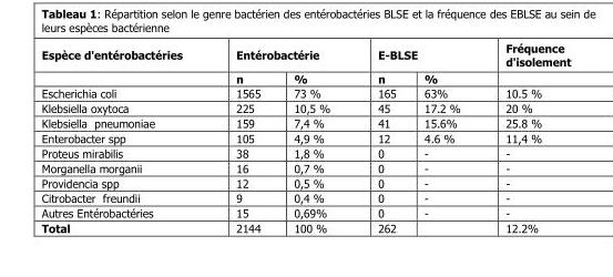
<table><thead><tr><td rowspan="2">Espèce d&#x27;entérobactéries</td><td colspan="2">Entérobactérie</td><td colspan="2">E-BLSE</td><td rowspan="2">Fréquence d&#x27;isolement</td></tr><tr><td>n</td><td>%</td><td>n</td><td>%</td></tr></thead><tbody><tr><td>Escherichia coli</td><td>1565</td><td>73 %</td><td>165</td><td>63%</td><td>10.5 %</td></tr><tr><td>Klebsiella oxytoca</td><td>225</td><td>10,5 %</td><td>45</td><td>17.2 %</td><td>20 %</td></tr><tr><td>Klebsiella pneumoniae</td><td>159</td><td>7,4 %</td><td>41</td><td>15.6%</td><td>25.8 %</td></tr><tr><td>Enterobacter spp</td><td>105</td><td>4,9 %</td><td>12</td><td>4.6 %</td><td>11,4 %</td></tr><tr><td>Proteus mirabilis</td><td>38</td><td>1,8 %</td><td>0</td><td>-</td><td>-</td></tr><tr><td>Morganella morganii</td><td>16</td><td>0,7 %</td><td>0</td><td>-</td><td>-</td></tr><tr><td>Providencia spp</td><td>12</td><td>0,5 %</td><td>0</td><td>-</td><td>-</td></tr><tr><td>Citrobacter freundii</td><td>9</td><td>0,4 %</td><td>0</td><td>-</td><td>-</td></tr><tr><td>Autres Entérobactéries</td><td>15</td><td>0,69%</td><td>0</td><td>-</td><td>-</td></tr><tr><td>Total</td><td>2144</td><td>100 %</td><td>262</td><td></td><td>12.2%</td></tr></tbody></table>